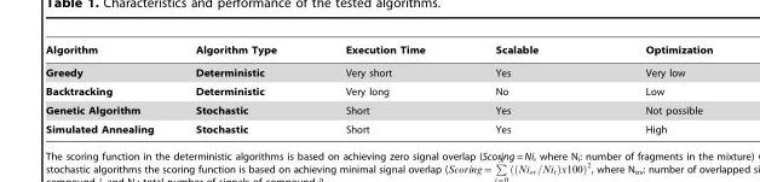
<table><thead><tr><td>Algorithm</td><td>Algorithm Type</td><td>Execution Time</td><td>Scalable</td><td>Optimization</td></tr></thead><tbody><tr><td>Greedy</td><td>Deterministic</td><td>Very short</td><td>Yes</td><td>Very low</td></tr><tr><td>Backtracking</td><td>Deterministic</td><td>Very long</td><td>No</td><td>Low</td></tr><tr><td>Genetic Algorithm</td><td>Stochastic</td><td>Short</td><td>Yes</td><td>Not possible</td></tr><tr><td>Simulated Annealing</td><td>Stochastic</td><td>Short</td><td>Yes</td><td>High</td></tr></tbody></table>